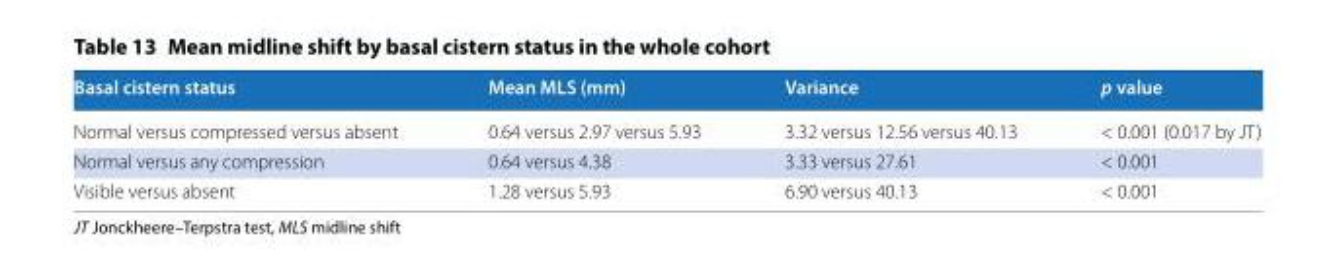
<table><thead><tr><td>Basal cistern status</td><td>Mean MLS (mm)</td><td>Variance</td><td>p value</td></tr></thead><tbody><tr><td>Normal versus compressed versus absent</td><td>0.64 versus 2.97 versus 5.93</td><td>3.32 versus 12.56 versus 40.13</td><td>&lt; 0.001 (0.017 by JT)</td></tr><tr><td>Normal versus any compression</td><td>0.64 versus 4.38</td><td>3.33 versus 27.61</td><td>&lt; 0.001</td></tr><tr><td>Visible versus absent</td><td>1.28 versus 5.93</td><td>6.90 versus 40.13</td><td>&lt; 0.001</td></tr></tbody></table>